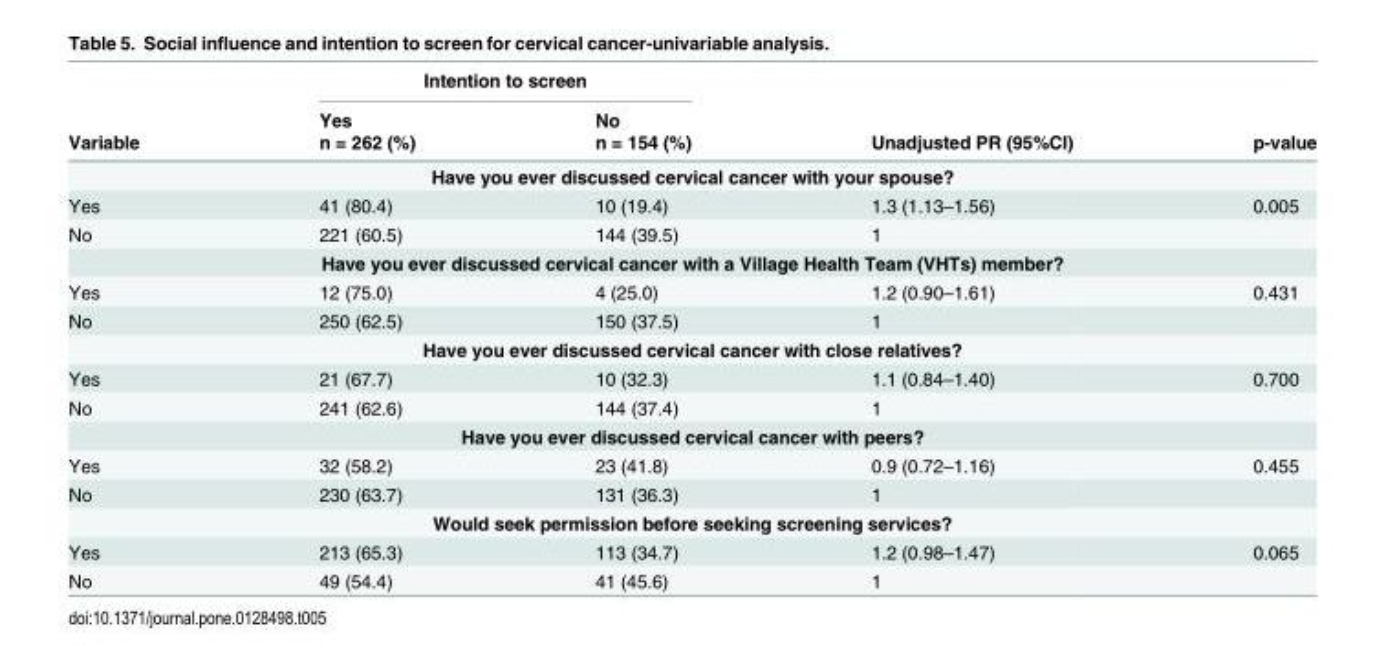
<table><thead><tr><td rowspan="3">Variable</td><td colspan="2">Intention to screen</td><td rowspan="3">Unadjusted PR (95%CI)</td><td rowspan="3">p-value</td></tr><tr><td rowspan="2">Yes n = 262 (%)</td><td rowspan="2">No n = 154 (%)</td></tr><tr></tr></thead><tbody><tr><td colspan="5">Have you ever discussed cervical cancer with your spouse?</td></tr><tr><td>Yes</td><td>41 (80.4)</td><td>10 (19.4)</td><td>1.3 (1.13–1.56)</td><td>0.005</td></tr><tr><td>No</td><td>221 (60.5)</td><td>144 (39.5)</td><td>1</td><td></td></tr><tr><td colspan="5">Have you ever discussed cervical cancer with a Village Health Team (VHTs) member?</td></tr><tr><td>Yes</td><td>12 (75.0)</td><td>4 (25.0)</td><td>1.2 (0.90–1.61)</td><td>0.431</td></tr><tr><td>No</td><td>250 (62.5)</td><td>150 (37.5)</td><td>1</td><td></td></tr><tr><td colspan="5">Have you ever discussed cervical cancer with close relatives?</td></tr><tr><td>Yes</td><td>21 (67.7)</td><td>10 (32.3)</td><td>1.1 (0.84–1.40)</td><td>0.700</td></tr><tr><td>No</td><td>241 (62.6)</td><td>144 (37.4)</td><td>1</td><td></td></tr><tr><td colspan="5">Have you ever discussed cervical cancer with peers?</td></tr><tr><td>Yes</td><td>32 (58.2)</td><td>23 (41.8)</td><td>0.9 (0.72–1.16)</td><td>0.455</td></tr><tr><td>No</td><td>230 (63.7)</td><td>131 (36.3)</td><td>1</td><td></td></tr><tr><td colspan="5">Would seek permission before seeking screening services?</td></tr><tr><td>Yes</td><td>213 (65.3)</td><td>113 (34.7)</td><td>1.2 (0.98–1.47)</td><td>0.065</td></tr><tr><td>No</td><td>49 (54.4)</td><td>41 (45.6)</td><td>1</td><td></td></tr></tbody></table>